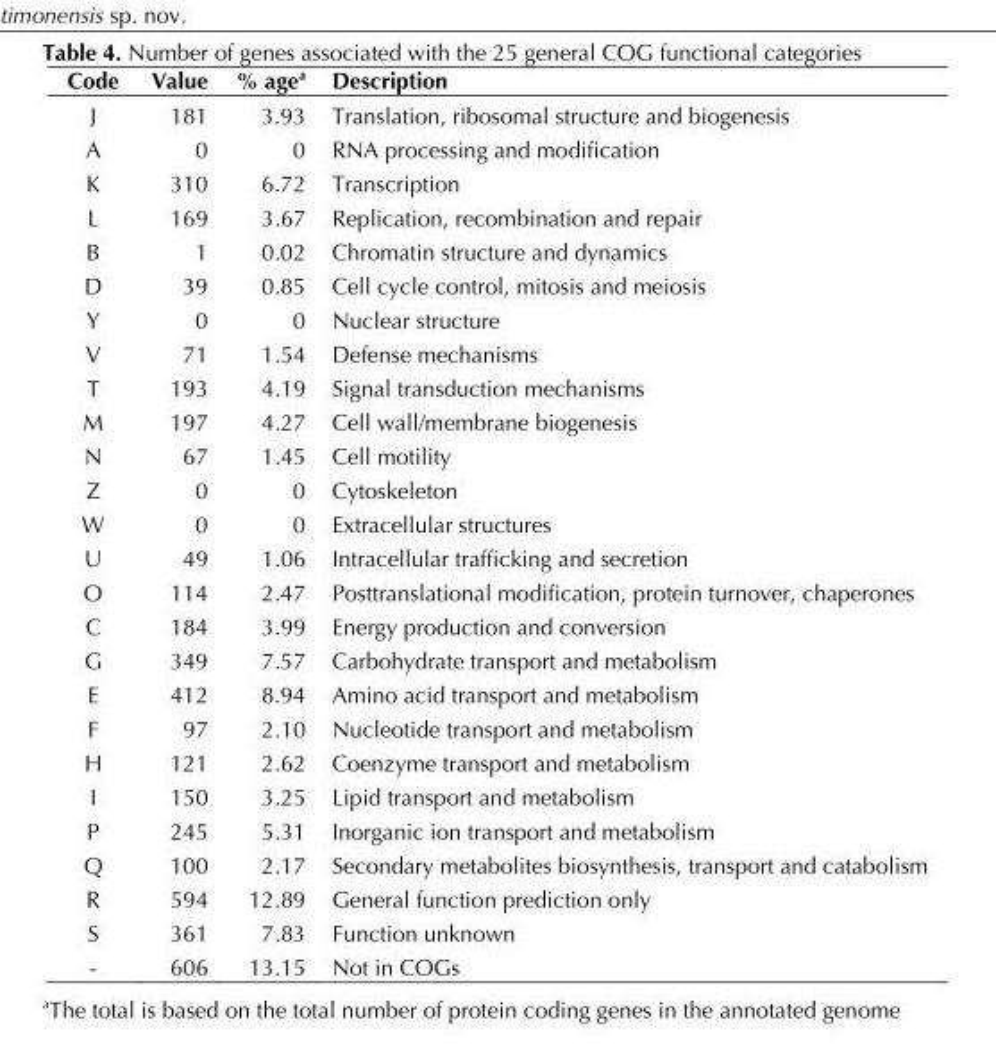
<table><thead><tr><td>Code</td><td>Value</td><td>% age<sup>a</sup></td><td>Description</td></tr></thead><tbody><tr><td>J</td><td>181</td><td>3.93</td><td>Translation, ribosomal structure and biogenesis</td></tr><tr><td>A</td><td>0</td><td>0</td><td>RNA processing and modification</td></tr><tr><td>K</td><td>310</td><td>6.72</td><td>Transcription</td></tr><tr><td>L</td><td>169</td><td>3.67</td><td>Replication, recombination and repair</td></tr><tr><td>B</td><td>1</td><td>0.02</td><td>Chromatin structure and dynamics</td></tr><tr><td>D</td><td>39</td><td>0.85</td><td>Cell cycle control, mitosis and meiosis</td></tr><tr><td>Y</td><td>0</td><td>0</td><td>Nuclear structure</td></tr><tr><td>V</td><td>71</td><td>1.54</td><td>Defense mechanisms</td></tr><tr><td>T</td><td>193</td><td>4.19</td><td>Signal transduction mechanisms</td></tr><tr><td>M</td><td>197</td><td>4.27</td><td>Cell wall/membrane biogenesis</td></tr><tr><td>N</td><td>67</td><td>1.45</td><td>Cell motility</td></tr><tr><td>Z</td><td>0</td><td>0</td><td>Cytoskeleton</td></tr><tr><td>W</td><td>0</td><td>0</td><td>Extracellular structures</td></tr><tr><td>U</td><td>49</td><td>1.06</td><td>Intracellular trafficking and secretion</td></tr><tr><td>O</td><td>114</td><td>2.47</td><td>Posttranslational modification, protein turnover, chaperones</td></tr><tr><td>C</td><td>184</td><td>3.99</td><td>Energy production and conversion</td></tr><tr><td>G</td><td>349</td><td>7.57</td><td>Carbohydrate transport and metabolism</td></tr><tr><td>E</td><td>412</td><td>8.94</td><td>Amino acid transport and metabolism</td></tr><tr><td>F</td><td>97</td><td>2.10</td><td>Nucleotide transport and metabolism</td></tr><tr><td>H</td><td>121</td><td>2.62</td><td>Coenzyme transport and metabolism</td></tr><tr><td>I</td><td>150</td><td>3.25</td><td>Lipid transport and metabolism</td></tr><tr><td>P</td><td>245</td><td>5.31</td><td>Inorganic ion transport and metabolism</td></tr><tr><td>Q</td><td>100</td><td>2.17</td><td>Secondary metabolites biosynthesis, transport and catabolism</td></tr><tr><td>R</td><td>594</td><td>12.89</td><td>General function prediction only</td></tr><tr><td>S</td><td>361</td><td>7.83</td><td>Function unknown</td></tr><tr><td>-</td><td>606</td><td>13.15</td><td>Not in COGs</td></tr></tbody></table>